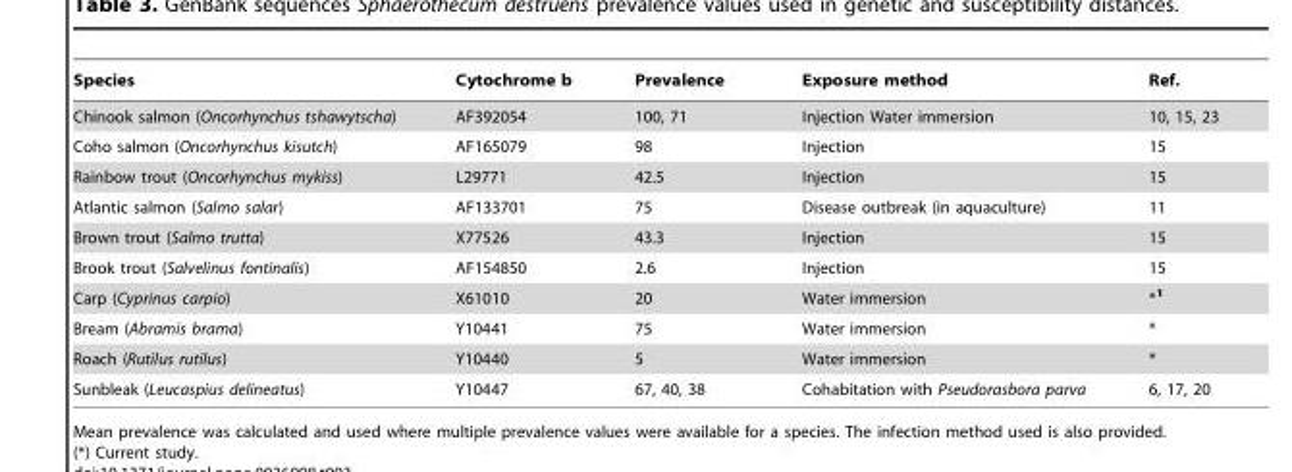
<table><thead><tr><td>Species</td><td>Cytochrome b</td><td>Prevalence</td><td>Exposure method</td><td>Ref.</td></tr></thead><tbody><tr><td>Chinook salmon (Oncorhynchus tshawytscha)</td><td>AF392054</td><td>100, 71</td><td>Injection Water immersion</td><td>10, 15, 23</td></tr><tr><td>Coho salmon (Oncorhynchus kisutch)</td><td>AF165079</td><td>98</td><td>Injection</td><td>15</td></tr><tr><td>Rainbow trout (Oncorhynchus mykiss)</td><td>L29771</td><td>42.5</td><td>Injection</td><td>15</td></tr><tr><td>Atlantic salmon (Salmo salar)</td><td>AF133701</td><td>75</td><td>Disease outbreak (in aquaculture)</td><td>11</td></tr><tr><td>Brown trout (Salmo trutta)</td><td>X77526</td><td>43.3</td><td>Injection</td><td>15</td></tr><tr><td>Brook trout (Salvelinus fontinalis)</td><td>AF154850</td><td>2.6</td><td>Injection</td><td>15</td></tr><tr><td>Carp (Cyprinus carpio)</td><td>X61010</td><td>20</td><td>Water immersion</td><td>*<sup>1</sup></td></tr><tr><td>Bream (Abramis brama)</td><td>Y10441</td><td>75</td><td>Water immersion</td><td>*</td></tr><tr><td>Roach (Rutilus rutilus)</td><td>Y10440</td><td>5</td><td>Water immersion</td><td>*</td></tr><tr><td>Sunbleak (Leucaspius delineatus)</td><td>Y10447</td><td>67, 40, 38</td><td>Cohabitation with Pseudorasbora parva</td><td>6, 17, 20</td></tr></tbody></table>